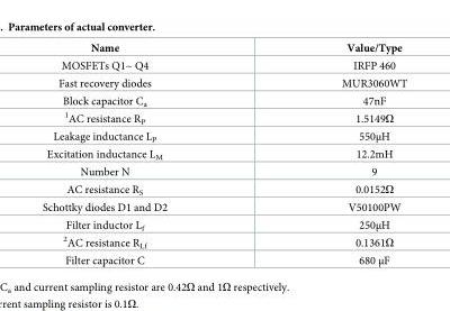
<table><thead><tr><td>Name</td><td>Value/Type</td></tr></thead><tbody><tr><td>MOSFETs Q1~ Q4</td><td>IRFP 460</td></tr><tr><td>Fast recovery diodes</td><td>MUR3060WT</td></tr><tr><td>Block capacitor C<sub>a</sub></td><td>47nF</td></tr><tr><td><sup>1</sup>AC resistance R<sub>P</sub></td><td>1.5149Ω</td></tr><tr><td>Leakage inductance L<sub>P</sub></td><td>550μH</td></tr><tr><td>Excitation inductance L<sub>M</sub></td><td>12.2mH</td></tr><tr><td>Number N</td><td>9</td></tr><tr><td>AC resistance R<sub>S</sub></td><td>0.0152Ω</td></tr><tr><td>Schottky diodes D1 and D2</td><td>V50100PW</td></tr><tr><td>Filter inductor L<sub>f</sub></td><td>250μH</td></tr><tr><td><sup>2</sup>AC resistance R<sub>Lf</sub></td><td>0.1361Ω</td></tr><tr><td>Filter capacitor C</td><td>680 μF</td></tr></tbody></table>